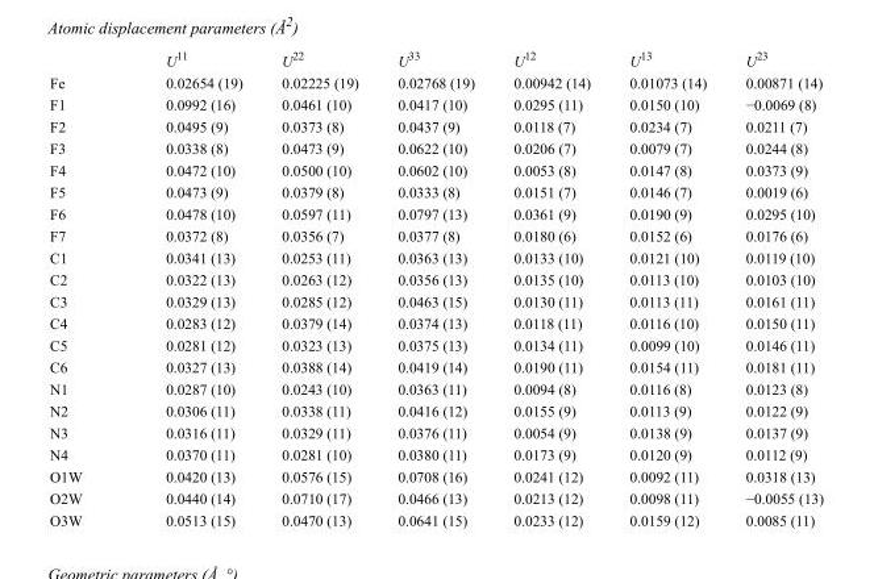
<table><thead><tr><td></td><td>U<sup>11</sup></td><td>U<sup>22</sup></td><td>U<sup>33</sup></td><td>U<sup>12</sup></td><td>U<sup>13</sup></td><td>U<sup>23</sup></td></tr></thead><tbody><tr><td>Fe</td><td>0.02654 (19)</td><td>0.02225 (19)</td><td>0.02768 (19)</td><td>0.00942 (14)</td><td>0.01073 (14)</td><td>0.00871 (14)</td></tr><tr><td>F1</td><td>0.0992 (16)</td><td>0.0461 (10)</td><td>0.0417 (10)</td><td>0.0295 (11)</td><td>0.0150 (10)</td><td>−0.0069 (8)</td></tr><tr><td>F2</td><td>0.0495 (9)</td><td>0.0373 (8)</td><td>0.0437 (9)</td><td>0.0118 (7)</td><td>0.0234 (7)</td><td>0.0211 (7)</td></tr><tr><td>F3</td><td>0.0338 (8)</td><td>0.0473 (9)</td><td>0.0622 (10)</td><td>0.0206 (7)</td><td>0.0079 (7)</td><td>0.0244 (8)</td></tr><tr><td>F4</td><td>0.0472 (10)</td><td>0.0500 (10)</td><td>0.0602 (10)</td><td>0.0053 (8)</td><td>0.0147 (8)</td><td>0.0373 (9)</td></tr><tr><td>F5</td><td>0.0473 (9)</td><td>0.0379 (8)</td><td>0.0333 (8)</td><td>0.0151 (7)</td><td>0.0146 (7)</td><td>0.0019 (6)</td></tr><tr><td>F6</td><td>0.0478 (10)</td><td>0.0597 (11)</td><td>0.0797 (13)</td><td>0.0361 (9)</td><td>0.0190 (9)</td><td>0.0295 (10)</td></tr><tr><td>F7</td><td>0.0372 (8)</td><td>0.0356 (7)</td><td>0.0377 (8)</td><td>0.0180 (6)</td><td>0.0152 (6)</td><td>0.0176 (6)</td></tr><tr><td>C1</td><td>0.0341 (13)</td><td>0.0253 (11)</td><td>0.0363 (13)</td><td>0.0133 (10)</td><td>0.0121 (10)</td><td>0.0119 (10)</td></tr><tr><td>C2</td><td>0.0322 (13)</td><td>0.0263 (12)</td><td>0.0356 (13)</td><td>0.0135 (10)</td><td>0.0113 (10)</td><td>0.0103 (10)</td></tr><tr><td>C3</td><td>0.0329 (13)</td><td>0.0285 (12)</td><td>0.0463 (15)</td><td>0.0130 (11)</td><td>0.0113 (11)</td><td>0.0161 (11)</td></tr><tr><td>C4</td><td>0.0283 (12)</td><td>0.0379 (14)</td><td>0.0374 (13)</td><td>0.0118 (11)</td><td>0.0116 (10)</td><td>0.0150 (11)</td></tr><tr><td>C5</td><td>0.0281 (12)</td><td>0.0323 (13)</td><td>0.0375 (13)</td><td>0.0134 (11)</td><td>0.0099 (10)</td><td>0.0146 (11)</td></tr><tr><td>C6</td><td>0.0327 (13)</td><td>0.0388 (14)</td><td>0.0419 (14)</td><td>0.0190 (11)</td><td>0.0154 (11)</td><td>0.0181 (11)</td></tr><tr><td>N1</td><td>0.0287 (10)</td><td>0.0243 (10)</td><td>0.0363 (11)</td><td>0.0094 (8)</td><td>0.0116 (8)</td><td>0.0123 (8)</td></tr><tr><td>N2</td><td>0.0306 (11)</td><td>0.0338 (11)</td><td>0.0416 (12)</td><td>0.0155 (9)</td><td>0.0113 (9)</td><td>0.0122 (9)</td></tr><tr><td>N3</td><td>0.0316 (11)</td><td>0.0329 (11)</td><td>0.0376 (11)</td><td>0.0054 (9)</td><td>0.0138 (9)</td><td>0.0137 (9)</td></tr><tr><td>N4</td><td>0.0370 (11)</td><td>0.0281 (10)</td><td>0.0380 (11)</td><td>0.0173 (9)</td><td>0.0120 (9)</td><td>0.0112 (9)</td></tr><tr><td>O1W</td><td>0.0420 (13)</td><td>0.0576 (15)</td><td>0.0708 (16)</td><td>0.0241 (12)</td><td>0.0092 (11)</td><td>0.0318 (13)</td></tr><tr><td>O2W</td><td>0.0440 (14)</td><td>0.0710 (17)</td><td>0.0466 (13)</td><td>0.0213 (12)</td><td>0.0098 (11)</td><td>−0.0055 (13)</td></tr><tr><td>O3W</td><td>0.0513 (15)</td><td>0.0470 (13)</td><td>0.0641 (15)</td><td>0.0233 (12)</td><td>0.0159 (12)</td><td>0.0085 (11)</td></tr></tbody></table>